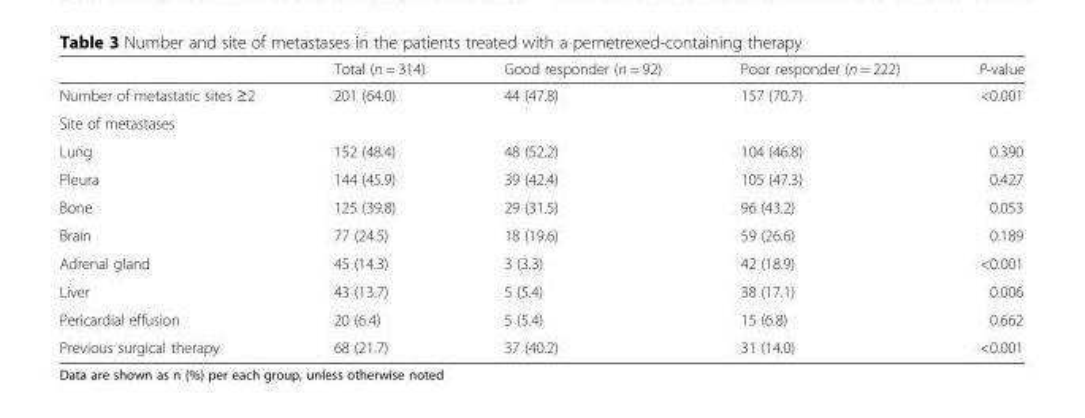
<table><thead><tr><td></td><td>Total (n = 314)</td><td>Good responder (n = 92)</td><td>Poor responder (n = 222)</td><td>P-value</td></tr></thead><tbody><tr><td>Number of metastatic sites ≥2</td><td>201 (64.0)</td><td>44 (47.8)</td><td>157 (70.7)</td><td>&lt;0.001</td></tr><tr><td colspan="5">Site of metastases</td></tr><tr><td>Lung</td><td>152 (48.4)</td><td>48 (52.2)</td><td>104 (46.8)</td><td>0.390</td></tr><tr><td>Pleura</td><td>144 (45.9)</td><td>39 (42.4)</td><td>105 (47.3)</td><td>0.427</td></tr><tr><td>Bone</td><td>125 (39.8)</td><td>29 (31.5)</td><td>96 (43.2)</td><td>0.053</td></tr><tr><td>Brain</td><td>77 (24.5)</td><td>18 (19.6)</td><td>59 (26.6)</td><td>0.189</td></tr><tr><td>Adrenal gland</td><td>45 (14.3)</td><td>3 (3.3)</td><td>42 (18.9)</td><td>&lt;0.001</td></tr><tr><td>Liver</td><td>43 (13.7)</td><td>5 (5.4)</td><td>38 (17.1)</td><td>0.006</td></tr><tr><td>Pericardial effusion</td><td>20 (6.4)</td><td>5 (5.4)</td><td>15 (6.8)</td><td>0.662</td></tr><tr><td>Previous surgical therapy</td><td>68 (21.7)</td><td>37 (40.2)</td><td>31 (14.0)</td><td>&lt;0.001</td></tr></tbody></table>